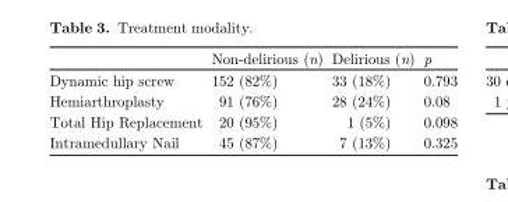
<table><thead><tr><td></td><td>Non-delirious (n)</td><td>Delirious (n)</td><td>p</td></tr></thead><tbody><tr><td>Dynamic hip screw</td><td>152 (82%)</td><td>33 (18%)</td><td>0.793</td></tr><tr><td>Hemiarthroplasty</td><td>91 (76%)</td><td>28 (24%)</td><td>0.08</td></tr><tr><td>Total Hip Replacement</td><td>20 (95%)</td><td>1 (5%)</td><td>0.098</td></tr><tr><td>Intramedullary Nail</td><td>45 (87%)</td><td>7 (13%)</td><td>0.325</td></tr></tbody></table>